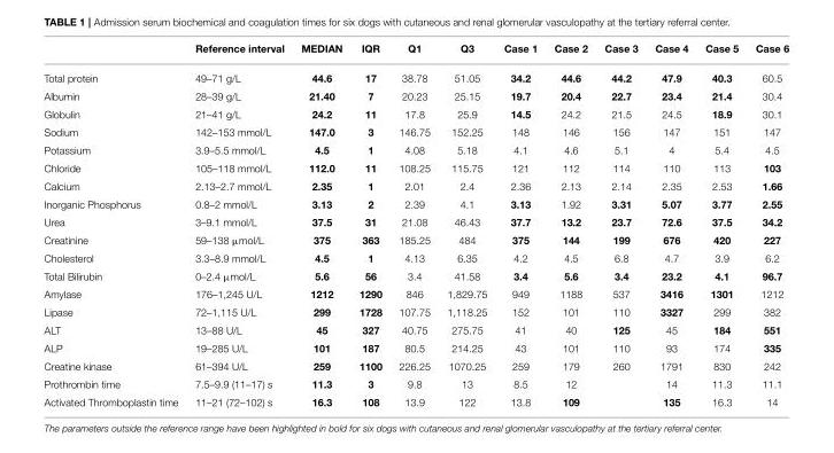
<table><thead><tr><td></td><td>Reference interval</td><td>MEDIAN</td><td>IQR</td><td>Q1</td><td>Q3</td><td>Case 1</td><td>Case 2</td><td>Case 3</td><td>Case 4</td><td>Case 5</td><td>Case 6</td></tr></thead><tbody><tr><td>Total protein</td><td>49–71 g/L</td><td>44.6</td><td>17</td><td>38.78</td><td>51.05</td><td>34.2</td><td>44.6</td><td>44.2</td><td>47.9</td><td>40.3</td><td>60.5</td></tr><tr><td>Albumin</td><td>28–39 g/L</td><td>21.40</td><td>7</td><td>20.23</td><td>25.15</td><td>19.7</td><td>20.4</td><td>22.7</td><td>23.4</td><td>21.4</td><td>30.4</td></tr><tr><td>Globulin</td><td>21–41 g/L</td><td>24.2</td><td>11</td><td>17.8</td><td>25.9</td><td>14.5</td><td>24.2</td><td>21.5</td><td>24.5</td><td>18.9</td><td>30.1</td></tr><tr><td>Sodium</td><td>142–153 mmol/L</td><td>147.0</td><td>3</td><td>146.75</td><td>152.25</td><td>148</td><td>146</td><td>156</td><td>147</td><td>151</td><td>147</td></tr><tr><td>Potassium</td><td>3.9–5.5 mmol/L</td><td>4.5</td><td>1</td><td>4.08</td><td>5.18</td><td>4.1</td><td>4.6</td><td>5.1</td><td>4</td><td>5.4</td><td>4.5</td></tr><tr><td>Chloride</td><td>105–118 mmol/L</td><td>112.0</td><td>11</td><td>108.25</td><td>115.75</td><td>121</td><td>112</td><td>114</td><td>110</td><td>113</td><td>103</td></tr><tr><td>Calcium</td><td>2.13–2.7 mmol/L</td><td>2.35</td><td>1</td><td>2.01</td><td>2.4</td><td>2.36</td><td>2.13</td><td>2.14</td><td>2.35</td><td>2.53</td><td>1.66</td></tr><tr><td>Inorganic Phosphorus</td><td>0.8–2 mmol/L</td><td>3.13</td><td>2</td><td>2.39</td><td>4.1</td><td>3.13</td><td>1.92</td><td>3.31</td><td>5.07</td><td>3.77</td><td>2.55</td></tr><tr><td>Urea</td><td>3–9.1 mmol/L</td><td>37.5</td><td>31</td><td>21.08</td><td>46.43</td><td>37.7</td><td>13.2</td><td>23.7</td><td>72.6</td><td>37.5</td><td>34.2</td></tr><tr><td>Creatinine</td><td>59–138 µmol/L</td><td>375</td><td>363</td><td>185.25</td><td>484</td><td>375</td><td>144</td><td>199</td><td>676</td><td>420</td><td>227</td></tr><tr><td>Cholesterol</td><td>3.3–8.9 mmol/L</td><td>4.5</td><td>1</td><td>4.13</td><td>6.35</td><td>4.2</td><td>4.5</td><td>6.8</td><td>4.7</td><td>3.9</td><td>6.2</td></tr><tr><td>Total Bilirubin</td><td>0–2.4 µmol/L</td><td>5.6</td><td>56</td><td>3.4</td><td>41.58</td><td>3.4</td><td>5.6</td><td>3.4</td><td>23.2</td><td>4.1</td><td>96.7</td></tr><tr><td>Amylase</td><td>176–1,245 U/L</td><td>1212</td><td>1290</td><td>846</td><td>1,829.75</td><td>949</td><td>1188</td><td>537</td><td>3416</td><td>1301</td><td>1212</td></tr><tr><td>Lipase</td><td>72–1,115 U/L</td><td>299</td><td>1728</td><td>107.75</td><td>1,118.25</td><td>152</td><td>101</td><td>110</td><td>3327</td><td>299</td><td>382</td></tr><tr><td>ALT</td><td>13–88 U/L</td><td>45</td><td>327</td><td>40.75</td><td>275.75</td><td>41</td><td>40</td><td>125</td><td>45</td><td>184</td><td>551</td></tr><tr><td>ALP</td><td>19–285 U/L</td><td>101</td><td>187</td><td>80.5</td><td>214.25</td><td>43</td><td>101</td><td>110</td><td>93</td><td>174</td><td>335</td></tr><tr><td>Creatine kinase</td><td>61–394 U/L</td><td>259</td><td>1100</td><td>226.25</td><td>1070.25</td><td>259</td><td>179</td><td>260</td><td>1791</td><td>830</td><td>242</td></tr><tr><td>Prothrombin time</td><td>7.5–9.9 (11–17) s</td><td>11.3</td><td>3</td><td>9.8</td><td>13</td><td>8.5</td><td>12</td><td></td><td>14</td><td>11.3</td><td>11.1</td></tr><tr><td>Activated Thromboplastin time</td><td>11–21 (72–102) s</td><td>16.3</td><td>108</td><td>13.9</td><td>122</td><td>13.8</td><td>109</td><td></td><td>135</td><td>16.3</td><td>14</td></tr></tbody></table>